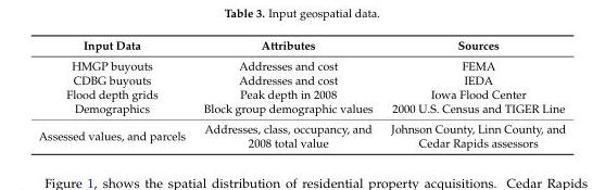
<table><thead><tr><td>Input Data</td><td>Attributes</td><td>Sources</td></tr></thead><tbody><tr><td>HMGP buyouts</td><td>Addresses and cost</td><td>FEMA</td></tr><tr><td>CDBG buyouts</td><td>Addresses and cost</td><td>IEDA</td></tr><tr><td>Flood depth grids</td><td>Peak depth in 2008</td><td>Iowa Flood Center</td></tr><tr><td>Demographics</td><td>Block group demographic values</td><td>2000 U.S. Census and TIGER Line</td></tr><tr><td>Assessed values, and parcels</td><td>Addresses, class, occupancy, and 2008 total value</td><td>Johnson County, Linn County, and Cedar Rapids assessors</td></tr></tbody></table>